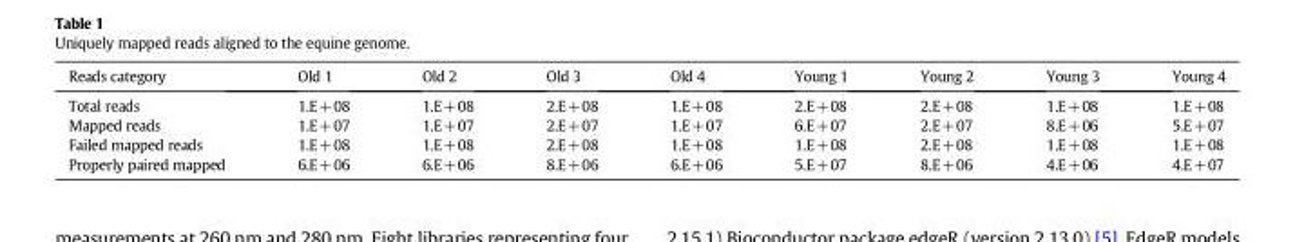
<table><thead><tr><td>Reads category</td><td>Old 1</td><td>Old 2</td><td>Old 3</td><td>Old 4</td><td>Young 1</td><td>Young 2</td><td>Young 3</td><td>Young 4</td></tr></thead><tbody><tr><td>Total reads</td><td>1.E+08</td><td>1.E+08</td><td>2.E+08</td><td>1.E+08</td><td>2.E+08</td><td>2.E+08</td><td>1.E+08</td><td>1.E+08</td></tr><tr><td>Mapped reads</td><td>1.E+07</td><td>1.E+07</td><td>2.E+07</td><td>1.E+07</td><td>6.E+07</td><td>2.E+07</td><td>8.E+06</td><td>5.E+07</td></tr><tr><td>Failed mapped reads</td><td>1.E+08</td><td>1.E+08</td><td>2.E+08</td><td>1.E+08</td><td>1.E+08</td><td>2.E+08</td><td>1.E+08</td><td>1.E+08</td></tr><tr><td>Properly paired mapped</td><td>6.E+06</td><td>6.E+06</td><td>8.E+06</td><td>6.E+06</td><td>5.E+07</td><td>8.E+06</td><td>4.E+06</td><td>4.E+07</td></tr></tbody></table>